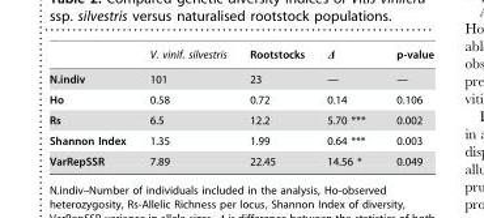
<table><thead><tr><td></td><td>V. vinif. silvestris</td><td>Rootstocks</td><td>Δ</td><td>p-value</td></tr></thead><tbody><tr><td>N.indiv</td><td>101</td><td>23</td><td>—</td><td>—</td></tr><tr><td>Ho</td><td>0.58</td><td>0.72</td><td>0.14</td><td>0.106</td></tr><tr><td>Rs</td><td>6.5</td><td>12.2</td><td>5.70 ***</td><td>0.002</td></tr><tr><td>Shannon Index</td><td>1.35</td><td>1.99</td><td>0.64 ***</td><td>0.003</td></tr><tr><td>VarRepSSR</td><td>7.89</td><td>22.45</td><td>14.56 *</td><td>0.049</td></tr></tbody></table>